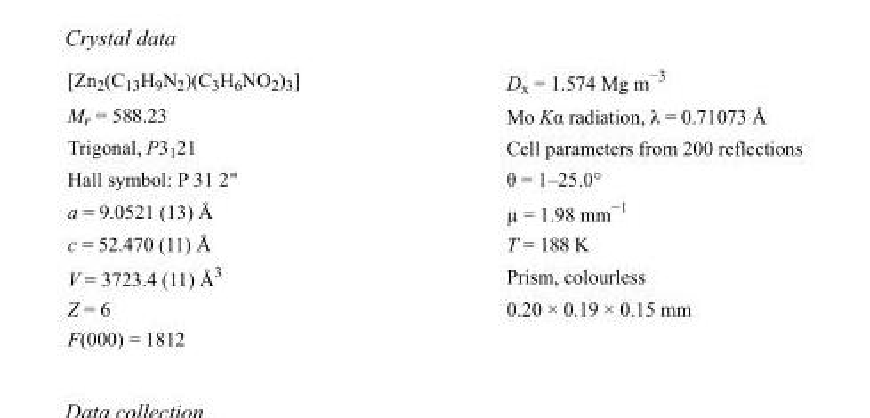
<table><tbody><tr><td>[Zn<sub>2</sub>(C<sub>13</sub>H<sub>9</sub>N<sub>2</sub>)(C<sub>3</sub>H<sub>6</sub>NO<sub>2</sub>)<sub>3</sub>]</td><td>D<sub>x</sub> = 1.574 Mg m<sup>−3</sup></td></tr><tr><td>M<sub>r</sub> = 588.23</td><td>Mo Kα radiation, λ = 0.71073 Å</td></tr><tr><td>Trigonal, P3<sub>1</sub>21</td><td>Cell parameters from 200 reflections</td></tr><tr><td>Hall symbol: P 31 2&quot;</td><td>θ = 1–25.0°</td></tr><tr><td>a = 9.0521 (13) Å</td><td>µ = 1.98 mm<sup>−1</sup></td></tr><tr><td>c = 52.470 (11) Å</td><td>T = 188 K</td></tr><tr><td>V = 3723.4 (11) Å<sup>3</sup></td><td>Prism, colourless</td></tr><tr><td>Z = 6</td><td>0.20 × 0.19 × 0.15 mm</td></tr><tr><td>F(000) = 1812</td><td></td></tr></tbody></table>